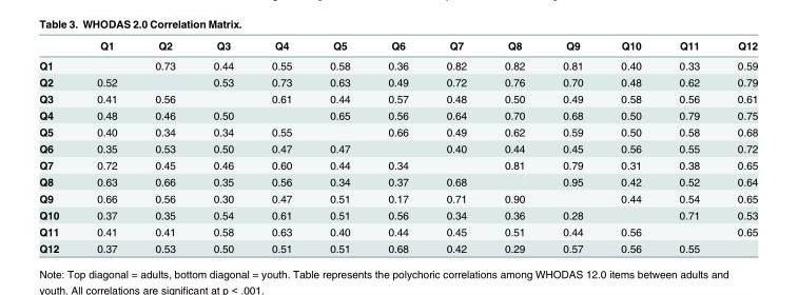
<table><thead><tr><td></td><td>Q1</td><td>Q2</td><td>Q3</td><td>Q4</td><td>Q5</td><td>Q6</td><td>Q7</td><td>Q8</td><td>Q9</td><td>Q10</td><td>Q11</td><td>Q12</td></tr></thead><tbody><tr><td>Q1</td><td></td><td>0.73</td><td>0.44</td><td>0.55</td><td>0.58</td><td>0.36</td><td>0.82</td><td>0.82</td><td>0.81</td><td>0.40</td><td>0.33</td><td>0.59</td></tr><tr><td>Q2</td><td>0.52</td><td></td><td>0.53</td><td>0.73</td><td>0.63</td><td>0.49</td><td>0.72</td><td>0.76</td><td>0.70</td><td>0.48</td><td>0.62</td><td>0.79</td></tr><tr><td>Q3</td><td>0.41</td><td>0.56</td><td></td><td>0.61</td><td>0.44</td><td>0.57</td><td>0.48</td><td>0.50</td><td>0.49</td><td>0.58</td><td>0.56</td><td>0.61</td></tr><tr><td>Q4</td><td>0.48</td><td>0.46</td><td>0.50</td><td></td><td>0.65</td><td>0.56</td><td>0.64</td><td>0.70</td><td>0.68</td><td>0.50</td><td>0.79</td><td>0.75</td></tr><tr><td>Q5</td><td>0.40</td><td>0.34</td><td>0.34</td><td>0.55</td><td></td><td>0.66</td><td>0.49</td><td>0.62</td><td>0.59</td><td>0.50</td><td>0.58</td><td>0.68</td></tr><tr><td>Q6</td><td>0.35</td><td>0.53</td><td>0.50</td><td>0.47</td><td>0.47</td><td></td><td>0.40</td><td>0.44</td><td>0.45</td><td>0.56</td><td>0.55</td><td>0.72</td></tr><tr><td>Q7</td><td>0.72</td><td>0.45</td><td>0.46</td><td>0.60</td><td>0.44</td><td>0.34</td><td></td><td>0.81</td><td>0.79</td><td>0.31</td><td>0.38</td><td>0.65</td></tr><tr><td>Q8</td><td>0.63</td><td>0.66</td><td>0.35</td><td>0.56</td><td>0.34</td><td>0.37</td><td>0.68</td><td></td><td>0.95</td><td>0.42</td><td>0.52</td><td>0.64</td></tr><tr><td>Q9</td><td>0.66</td><td>0.56</td><td>0.30</td><td>0.47</td><td>0.51</td><td>0.17</td><td>0.71</td><td>0.90</td><td></td><td>0.44</td><td>0.54</td><td>0.65</td></tr><tr><td>Q10</td><td>0.37</td><td>0.35</td><td>0.54</td><td>0.61</td><td>0.51</td><td>0.56</td><td>0.34</td><td>0.36</td><td>0.28</td><td></td><td>0.71</td><td>0.53</td></tr><tr><td>Q11</td><td>0.41</td><td>0.41</td><td>0.58</td><td>0.63</td><td>0.40</td><td>0.44</td><td>0.45</td><td>0.51</td><td>0.44</td><td>0.56</td><td></td><td>0.65</td></tr><tr><td>Q12</td><td>0.37</td><td>0.53</td><td>0.50</td><td>0.51</td><td>0.51</td><td>0.68</td><td>0.42</td><td>0.29</td><td>0.57</td><td>0.56</td><td>0.55</td><td></td></tr></tbody></table>